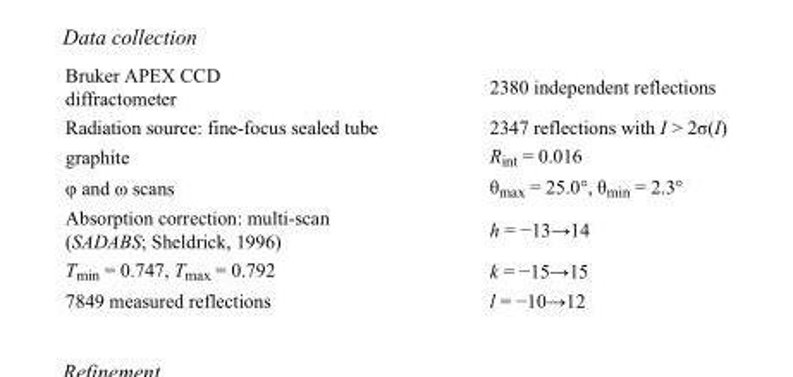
<table><tbody><tr><td>Bruker APEX CCD diffractometer</td><td>2380 independent reflections</td></tr><tr><td>Radiation source: fine-focus sealed tube</td><td>2347 reflections with I &gt; 2σ(I)</td></tr><tr><td>graphite</td><td>R<sub>int</sub> = 0.016</td></tr><tr><td>φ and ω scans</td><td>θ<sub>max</sub> = 25.0°, θ<sub>min</sub> = 2.3°</td></tr><tr><td>Absorption correction: multi-scan (SADABS; Sheldrick, 1996)</td><td>h = −13→14</td></tr><tr><td>T<sub>min</sub> = 0.747, T<sub>max</sub> = 0.792</td><td>k = −15→15</td></tr><tr><td>7849 measured reflections</td><td>l = −10→12</td></tr></tbody></table>